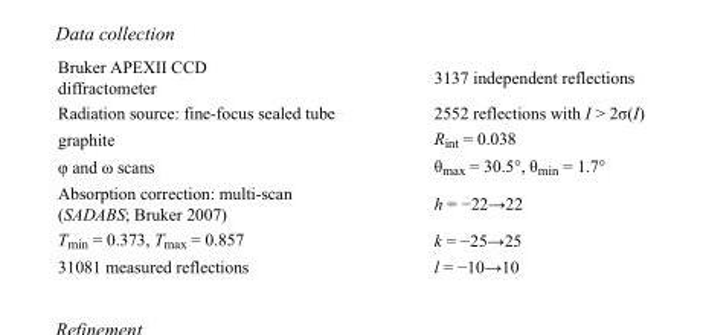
<table><tbody><tr><td>Bruker APEXII CCD diffractometer</td><td>3137 independent reflections</td></tr><tr><td>Radiation source: fine-focus sealed tube</td><td>2552 reflections with I &gt; 2σ(I)</td></tr><tr><td>graphite</td><td>R<sub>int</sub> = 0.038</td></tr><tr><td>φ and ω scans</td><td>θ<sub>max</sub> = 30.5°, θ<sub>min</sub> = 1.7°</td></tr><tr><td>Absorption correction: multi-scan (SADABS; Bruker 2007)</td><td>h = −22→22</td></tr><tr><td>T<sub>min</sub> = 0.373, T<sub>max</sub> = 0.857</td><td>k = −25→25</td></tr><tr><td>31081 measured reflections</td><td>l = −10→10</td></tr></tbody></table>